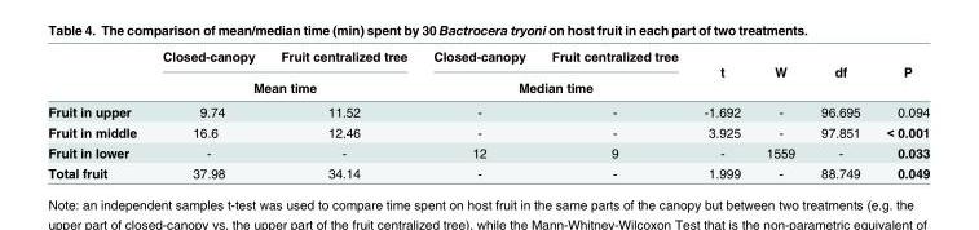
<table><thead><tr><td rowspan="2"></td><td>Closed-canopy</td><td>Fruit centralized tree</td><td>Closed-canopy</td><td>Fruit centralized tree</td><td rowspan="2">t</td><td rowspan="2">W</td><td rowspan="2">df</td><td rowspan="2">P</td></tr><tr><td colspan="2">Mean time</td><td colspan="2">Median time</td></tr></thead><tbody><tr><td>Fruit in upper</td><td>9.74</td><td>11.52</td><td>-</td><td>-</td><td>-1.692</td><td>-</td><td>96.695</td><td>0.094</td></tr><tr><td>Fruit in middle</td><td>16.6</td><td>12.46</td><td>-</td><td>-</td><td>3.925</td><td>-</td><td>97.851</td><td>&lt; 0.001</td></tr><tr><td>Fruit in lower</td><td>-</td><td>-</td><td>12</td><td>9</td><td>-</td><td>1559</td><td>-</td><td>0.033</td></tr><tr><td>Total fruit</td><td>37.98</td><td>34.14</td><td>-</td><td>-</td><td>1.999</td><td>-</td><td>88.749</td><td>0.049</td></tr></tbody></table>